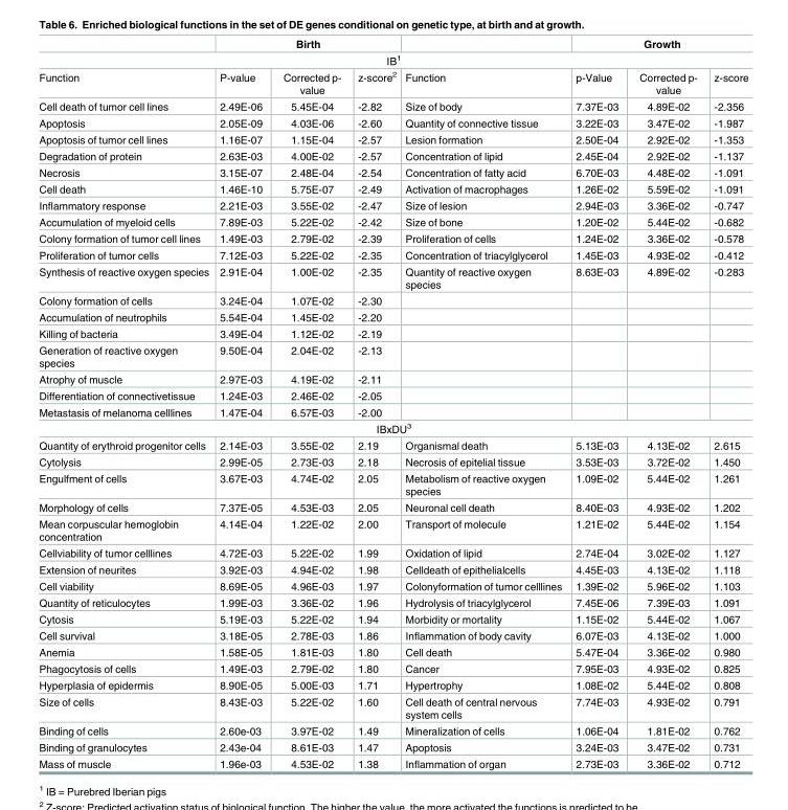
<table><thead><tr><td colspan="4">Birth</td><td colspan="4">Growth</td></tr><tr><td colspan="8">IB<sup>1</sup></td></tr><tr><td>Function</td><td>P-value</td><td>Corrected p- value</td><td>z-score<sup>2</sup></td><td>Function</td><td>p-Value</td><td>Corrected p- value</td><td>z-score</td></tr></thead><tbody><tr><td>Cell death of tumor cell lines</td><td>2.49E-06</td><td>5.45E-04</td><td>-2.82</td><td>Size of body</td><td>7.37E-03</td><td>4.89E-02</td><td>-2.356</td></tr><tr><td>Apoptosis</td><td>2.05E-09</td><td>4.03E-06</td><td>-2.60</td><td>Quantity of connective tissue</td><td>3.22E-03</td><td>3.47E-02</td><td>-1.987</td></tr><tr><td>Apoptosis of tumor cell lines</td><td>1.16E-07</td><td>1.15E-04</td><td>-2.57</td><td>Lesion formation</td><td>2.50E-04</td><td>2.92E-02</td><td>-1.353</td></tr><tr><td>Degradation of protein</td><td>2.63E-03</td><td>4.00E-02</td><td>-2.57</td><td>Concentration of lipid</td><td>2.45E-04</td><td>2.92E-02</td><td>-1.137</td></tr><tr><td>Necrosis</td><td>3.15E-07</td><td>2.48E-04</td><td>-2.54</td><td>Concentration of fatty acid</td><td>6.70E-03</td><td>4.48E-02</td><td>-1.091</td></tr><tr><td>Cell death</td><td>1.46E-10</td><td>5.75E-07</td><td>-2.49</td><td>Activation of macrophages</td><td>1.26E-02</td><td>5.59E-02</td><td>-1.091</td></tr><tr><td>Inflammatory response</td><td>2.21E-03</td><td>3.55E-02</td><td>-2.47</td><td>Size of lesion</td><td>2.94E-03</td><td>3.36E-02</td><td>-0.747</td></tr><tr><td>Accumulation of myeloid cells</td><td>7.89E-03</td><td>5.22E-02</td><td>-2.42</td><td>Size of bone</td><td>1.20E-02</td><td>5.44E-02</td><td>-0.682</td></tr><tr><td>Colony formation of tumor cell lines</td><td>1.49E-03</td><td>2.79E-02</td><td>-2.39</td><td>Proliferation of cells</td><td>1.24E-02</td><td>3.36E-02</td><td>-0.578</td></tr><tr><td>Proliferation of tumor cells</td><td>7.12E-03</td><td>5.22E-02</td><td>-2.35</td><td>Concentration of triacylglycerol</td><td>1.45E-03</td><td>4.93E-02</td><td>-0.412</td></tr><tr><td>Synthesis of reactive oxygen species</td><td>2.91E-04</td><td>1.00E-02</td><td>-2.35</td><td>Quantity of reactive oxygen species</td><td>8.63E-03</td><td>4.89E-02</td><td>-0.283</td></tr><tr><td>Colony formation of cells</td><td>3.24E-04</td><td>1.07E-02</td><td>-2.30</td><td></td><td></td><td></td><td></td></tr><tr><td>Accumulation of neutrophils</td><td>5.54E-04</td><td>1.45E-02</td><td>-2.20</td><td></td><td></td><td></td><td></td></tr><tr><td>Killing of bacteria</td><td>3.49E-04</td><td>1.12E-02</td><td>-2.19</td><td></td><td></td><td></td><td></td></tr><tr><td>Generation of reactive oxygen species</td><td>9.50E-04</td><td>2.04E-02</td><td>-2.13</td><td></td><td></td><td></td><td></td></tr><tr><td>Atrophy of muscle</td><td>2.97E-03</td><td>4.19E-02</td><td>-2.11</td><td></td><td></td><td></td><td></td></tr><tr><td>Differentiation of connectivetissue</td><td>1.24E-03</td><td>2.46E-02</td><td>-2.05</td><td></td><td></td><td></td><td></td></tr><tr><td>Metastasis of melanoma celllines</td><td>1.47E-04</td><td>6.57E-03</td><td>-2.00</td><td></td><td></td><td></td><td></td></tr><tr><td colspan="8">IBxDU<sup>3</sup></td></tr><tr><td>Quantity of erythroid progenitor cells</td><td>2.14E-03</td><td>3.55E-02</td><td>2.19</td><td>Organismal death</td><td>5.13E-03</td><td>4.13E-02</td><td>2.615</td></tr><tr><td>Cytolysis</td><td>2.99E-05</td><td>2.73E-03</td><td>2.18</td><td>Necrosis of epitelial tissue</td><td>3.53E-03</td><td>3.72E-02</td><td>1.450</td></tr><tr><td>Engulfment of cells</td><td>3.67E-03</td><td>4.74E-02</td><td>2.05</td><td>Metabolism of reactive oxygen species</td><td>1.09E-02</td><td>5.44E-02</td><td>1.261</td></tr><tr><td>Morphology of cells</td><td>7.37E-05</td><td>4.53E-03</td><td>2.05</td><td>Neuronal cell death</td><td>8.40E-03</td><td>4.93E-02</td><td>1.202</td></tr><tr><td>Mean corpuscular hemoglobin concentration</td><td>4.14E-04</td><td>1.22E-02</td><td>2.00</td><td>Transport of molecule</td><td>1.21E-02</td><td>5.44E-02</td><td>1.154</td></tr><tr><td>Cellviability of tumor celllines</td><td>4.72E-03</td><td>5.22E-02</td><td>1.99</td><td>Oxidation of lipid</td><td>2.74E-04</td><td>3.02E-02</td><td>1.127</td></tr><tr><td>Extension of neurites</td><td>3.92E-03</td><td>4.94E-02</td><td>1.98</td><td>Celldeath of epithelialcells</td><td>4.45E-03</td><td>4.13E-02</td><td>1.118</td></tr><tr><td>Cell viability</td><td>8.69E-05</td><td>4.96E-03</td><td>1.97</td><td>Colonyformation of tumor celllines</td><td>1.39E-02</td><td>5.96E-02</td><td>1.103</td></tr><tr><td>Quantity of reticulocytes</td><td>1.99E-03</td><td>3.36E-02</td><td>1.96</td><td>Hydrolysis of triacylglycerol</td><td>7.45E-06</td><td>7.39E-03</td><td>1.091</td></tr><tr><td>Cytosis</td><td>5.19E-03</td><td>5.22E-02</td><td>1.94</td><td>Morbidity or mortality</td><td>1.15E-02</td><td>5.44E-02</td><td>1.067</td></tr><tr><td>Cell survival</td><td>3.18E-05</td><td>2.78E-03</td><td>1.86</td><td>Inflammation of body cavity</td><td>6.07E-03</td><td>4.13E-02</td><td>1.000</td></tr><tr><td>Anemia</td><td>1.58E-05</td><td>1.81E-03</td><td>1.80</td><td>Cell death</td><td>5.47E-04</td><td>3.36E-02</td><td>0.980</td></tr><tr><td>Phagocytosis of cells</td><td>1.49E-03</td><td>2.79E-02</td><td>1.80</td><td>Cancer</td><td>7.95E-03</td><td>4.93E-02</td><td>0.825</td></tr><tr><td>Hyperplasia of epidermis</td><td>8.90E-05</td><td>5.00E-03</td><td>1.71</td><td>Hypertrophy</td><td>1.08E-02</td><td>5.44E-02</td><td>0.808</td></tr><tr><td>Size of cells</td><td>8.43E-03</td><td>5.22E-02</td><td>1.60</td><td>Cell death of central nervous system cells</td><td>7.74E-03</td><td>4.93E-02</td><td>0.791</td></tr><tr><td>Binding of cells</td><td>2.60e-03</td><td>3.97E-02</td><td>1.49</td><td>Mineralization of cells</td><td>1.06E-04</td><td>1.81E-02</td><td>0.762</td></tr><tr><td>Binding of granulocytes</td><td>2.43e-04</td><td>8.61E-03</td><td>1.47</td><td>Apoptosis</td><td>3.24E-03</td><td>3.47E-02</td><td>0.731</td></tr><tr><td>Mass of muscle</td><td>1.96e-03</td><td>4.53E-02</td><td>1.38</td><td>Inflammation of organ</td><td>2.73E-03</td><td>3.36E-02</td><td>0.712</td></tr></tbody></table>